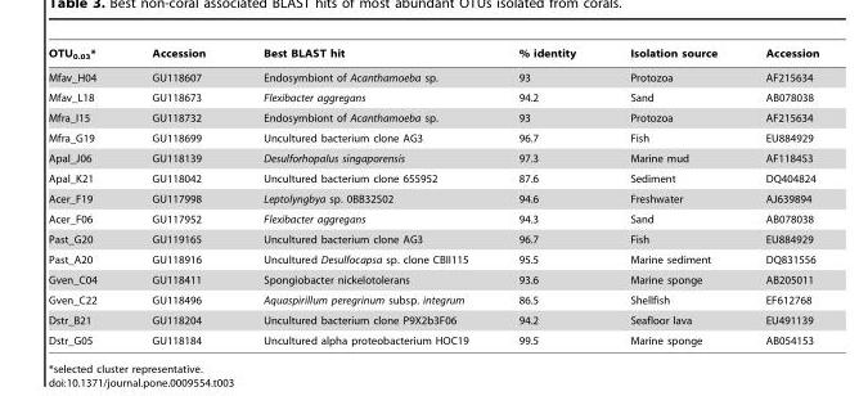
<table><thead><tr><td>OTU<sub>0.03</sub>*</td><td>Accession</td><td>Best BLAST hit</td><td>% identity</td><td>Isolation source</td><td>Accession</td></tr></thead><tbody><tr><td>Mfav_H04</td><td>GU118607</td><td>Endosymbiont of Acanthamoeba sp.</td><td>93</td><td>Protozoa</td><td>AF215634</td></tr><tr><td>Mfav_L18</td><td>GU118673</td><td>Flexibacter aggregans</td><td>94.2</td><td>Sand</td><td>AB078038</td></tr><tr><td>Mfra_I15</td><td>GU118732</td><td>Endosymbiont of Acanthamoeba sp.</td><td>93</td><td>Protozoa</td><td>AF215634</td></tr><tr><td>Mfra_G19</td><td>GU118699</td><td>Uncultured bacterium clone AG3</td><td>96.7</td><td>Fish</td><td>EU884929</td></tr><tr><td>Apal_J06</td><td>GU118139</td><td>Desulforhopalus singaporensis</td><td>97.3</td><td>Marine mud</td><td>AF118453</td></tr><tr><td>Apal_K21</td><td>GU118042</td><td>Uncultured bacterium clone 655952</td><td>87.6</td><td>Sediment</td><td>DQ404824</td></tr><tr><td>Acer_F19</td><td>GU117998</td><td>Leptolyngbya sp. 0BB32S02</td><td>94.6</td><td>Freshwater</td><td>AJ639894</td></tr><tr><td>Acer_F06</td><td>GU117952</td><td>Flexibacter aggregans</td><td>94.3</td><td>Sand</td><td>AB078038</td></tr><tr><td>Past_G20</td><td>GU119165</td><td>Uncultured bacterium clone AG3</td><td>96.7</td><td>Fish</td><td>EU884929</td></tr><tr><td>Past_A20</td><td>GU118916</td><td>Uncultured Desulfocapsa sp. clone CBII115</td><td>95.5</td><td>Marine sediment</td><td>DQ831556</td></tr><tr><td>Gven_C04</td><td>GU118411</td><td>Spongiobacter nickelotolerans</td><td>93.6</td><td>Marine sponge</td><td>AB205011</td></tr><tr><td>Gven_C22</td><td>GU118496</td><td>Aquaspirillum peregrinum subsp. integrum</td><td>86.5</td><td>Shellfish</td><td>EF612768</td></tr><tr><td>Dstr_B21</td><td>GU118204</td><td>Uncultured bacterium clone P9X2b3F06</td><td>94.2</td><td>Seafloor lava</td><td>EU491139</td></tr><tr><td>Dstr_G05</td><td>GU118184</td><td>Uncultured alpha proteobacterium HOC19</td><td>99.5</td><td>Marine sponge</td><td>AB054153</td></tr></tbody></table>